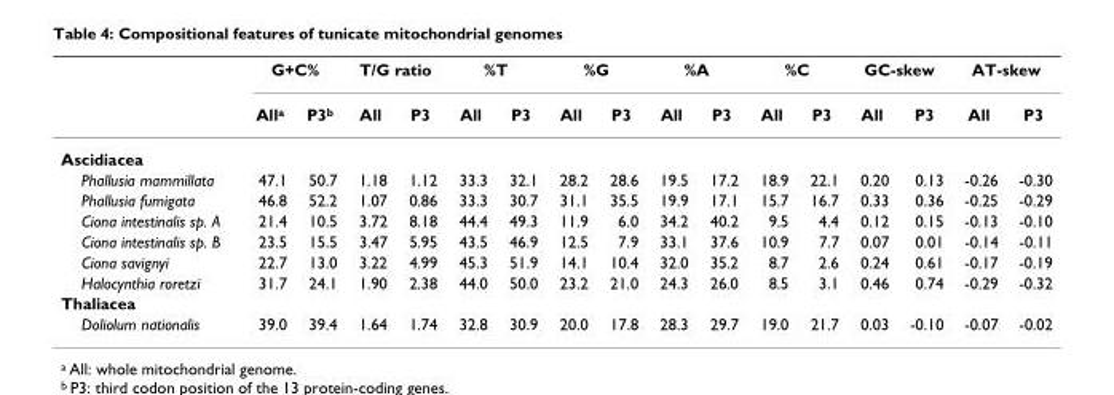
<table><thead><tr><td rowspan="2"></td><td colspan="2">G+C%</td><td colspan="2">T/G ratio</td><td colspan="2">%T</td><td colspan="2">%G</td><td colspan="2">%A</td><td colspan="2">%C</td><td colspan="2">GC-skew</td><td colspan="2">AT-skew</td></tr><tr><td>All<sup>a</sup></td><td>P3<sup>b</sup></td><td>All</td><td>P3</td><td>All</td><td>P3</td><td>All</td><td>P3</td><td>All</td><td>P3</td><td>All</td><td>P3</td><td>All</td><td>P3</td><td>All</td><td>P3</td></tr></thead><tbody><tr><td colspan="17">Ascidiacea</td></tr><tr><td>Phallusia mammillata</td><td>47.1</td><td>50.7</td><td>1.18</td><td>1.12</td><td>33.3</td><td>32.1</td><td>28.2</td><td>28.6</td><td>19.5</td><td>17.2</td><td>18.9</td><td>22.1</td><td>0.20</td><td>0.13</td><td>-0.26</td><td>-0.30</td></tr><tr><td>Phallusia fumigata</td><td>46.8</td><td>52.2</td><td>1.07</td><td>0.86</td><td>33.3</td><td>30.7</td><td>31.1</td><td>35.5</td><td>19.9</td><td>17.1</td><td>15.7</td><td>16.7</td><td>0.33</td><td>0.36</td><td>-0.25</td><td>-0.29</td></tr><tr><td>Ciona intestinalis sp. A</td><td>21.4</td><td>10.5</td><td>3.72</td><td>8.18</td><td>44.4</td><td>49.3</td><td>11.9</td><td>6.0</td><td>34.2</td><td>40.2</td><td>9.5</td><td>4.4</td><td>0.12</td><td>0.15</td><td>-0.13</td><td>-0.10</td></tr><tr><td>Ciona intestinalis sp. B</td><td>23.5</td><td>15.5</td><td>3.47</td><td>5.95</td><td>43.5</td><td>46.9</td><td>12.5</td><td>7.9</td><td>33.1</td><td>37.6</td><td>10.9</td><td>7.7</td><td>0.07</td><td>0.01</td><td>-0.14</td><td>-0.11</td></tr><tr><td>Ciona savignyi</td><td>22.7</td><td>13.0</td><td>3.22</td><td>4.99</td><td>45.3</td><td>51.9</td><td>14.1</td><td>10.4</td><td>32.0</td><td>35.2</td><td>8.7</td><td>2.6</td><td>0.24</td><td>0.61</td><td>-0.17</td><td>-0.19</td></tr><tr><td>Halocynthia roretzi</td><td>31.7</td><td>24.1</td><td>1.90</td><td>2.38</td><td>44.0</td><td>50.0</td><td>23.2</td><td>21.0</td><td>24.3</td><td>26.0</td><td>8.5</td><td>3.1</td><td>0.46</td><td>0.74</td><td>-0.29</td><td>-0.32</td></tr><tr><td colspan="17">Thaliacea</td></tr><tr><td>Doliolum nationalis</td><td>39.0</td><td>39.4</td><td>1.64</td><td>1.74</td><td>32.8</td><td>30.9</td><td>20.0</td><td>17.8</td><td>28.3</td><td>29.7</td><td>19.0</td><td>21.7</td><td>0.03</td><td>-0.10</td><td>-0.07</td><td>-0.02</td></tr></tbody></table>